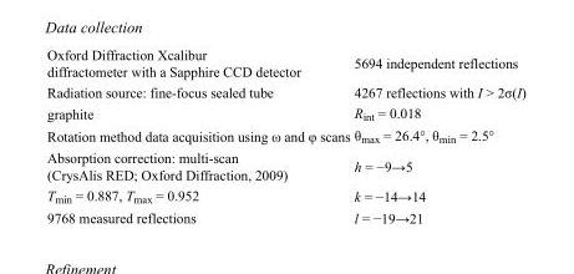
<table><tbody><tr><td>Oxford Diffraction Xcalibur diffractometer with a Sapphire CCD detector</td><td>5694 independent reflections</td></tr><tr><td>Radiation source: fine-focus sealed tube</td><td>4267 reflections with I &gt; 2σ(I)</td></tr><tr><td>graphite</td><td>R<sub>int</sub> = 0.018</td></tr><tr><td>Rotation method data acquisition using ω and φ scans</td><td>θ<sub>max</sub> = 26.4°, θ<sub>min</sub> = 2.5°</td></tr><tr><td>Absorption correction: multi-scan (CrysAlis RED; Oxford Diffraction, 2009)</td><td>h = −9→5</td></tr><tr><td>T<sub>min</sub> = 0.887, T<sub>max</sub> = 0.952</td><td>k = −14→14</td></tr><tr><td>9768 measured reflections</td><td>l = −19→21</td></tr></tbody></table>